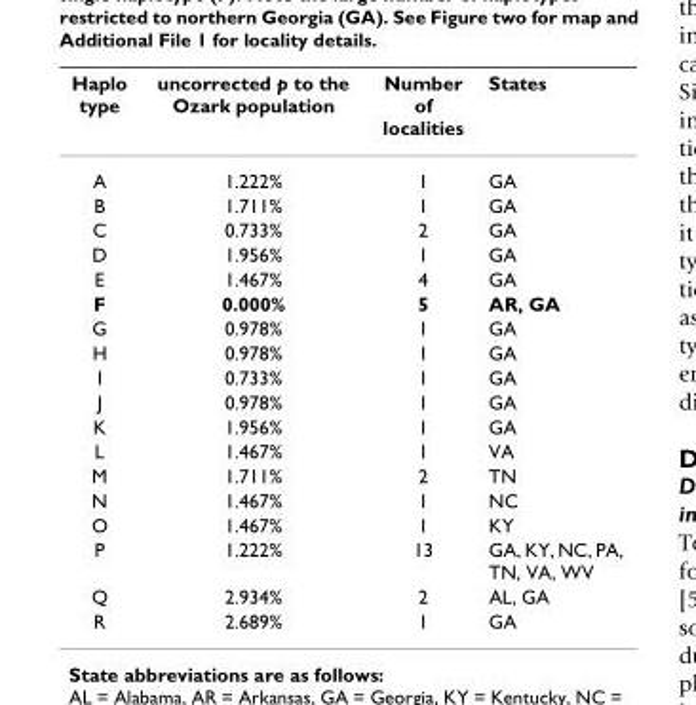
<table><thead><tr><td>Haplo type</td><td>uncorrected p to the Ozark population</td><td>Number of localities</td><td>States</td></tr></thead><tbody><tr><td>A</td><td>1.222%</td><td>1</td><td>GA</td></tr><tr><td>B</td><td>1.711%</td><td>1</td><td>GA</td></tr><tr><td>C</td><td>0.733%</td><td>2</td><td>GA</td></tr><tr><td>D</td><td>1.956%</td><td>1</td><td>GA</td></tr><tr><td>E</td><td>1.467%</td><td>4</td><td>GA</td></tr><tr><td>F</td><td>0.000%</td><td>5</td><td>AR, GA</td></tr><tr><td>G</td><td>0.978%</td><td>1</td><td>GA</td></tr><tr><td>H</td><td>0.978%</td><td>1</td><td>GA</td></tr><tr><td>I</td><td>0.733%</td><td>1</td><td>GA</td></tr><tr><td>J</td><td>0.978%</td><td>1</td><td>GA</td></tr><tr><td>K</td><td>1.956%</td><td>1</td><td>GA</td></tr><tr><td>L</td><td>1.467%</td><td>1</td><td>VA</td></tr><tr><td>M</td><td>1.711%</td><td>2</td><td>TN</td></tr><tr><td>N</td><td>1.467%</td><td>1</td><td>NC</td></tr><tr><td>O</td><td>1.467%</td><td>1</td><td>KY</td></tr><tr><td>P</td><td>1.222%</td><td>13</td><td>GA, KY, NC, PA, TN, VA, WV</td></tr><tr><td>Q</td><td>2.934%</td><td>2</td><td>AL, GA</td></tr><tr><td>R</td><td>2.689%</td><td>1</td><td>GA</td></tr></tbody></table>